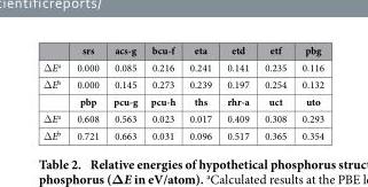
<table><thead><tr><td></td><td>srs</td><td>acs-g</td><td>bcu-f</td><td>eta</td><td>etd</td><td>etf</td><td>pbg</td></tr></thead><tbody><tr><td>Δ E<sup>a</sup></td><td>0.000</td><td>0.085</td><td>0.216</td><td>0.241</td><td>0.141</td><td>0.235</td><td>0.116</td></tr><tr><td rowspan="2">Δ E<sup>b</sup></td><td>0.000</td><td>0.145</td><td>0.273</td><td>0.239</td><td>0.197</td><td>0.254</td><td>0.132</td></tr><tr><td>pbp</td><td>pcu-g</td><td>pcu-h</td><td>ths</td><td>rhr-a</td><td>uct</td><td>uto</td></tr><tr><td>Δ E<sup>a</sup></td><td>0.608</td><td>0.563</td><td>0.023</td><td>0.017</td><td>0.409</td><td>0.308</td><td>0.293</td></tr><tr><td>Δ E<sup>b</sup></td><td>0.721</td><td>0.663</td><td>0.031</td><td>0.096</td><td>0.517</td><td>0.365</td><td>0.354</td></tr></tbody></table>